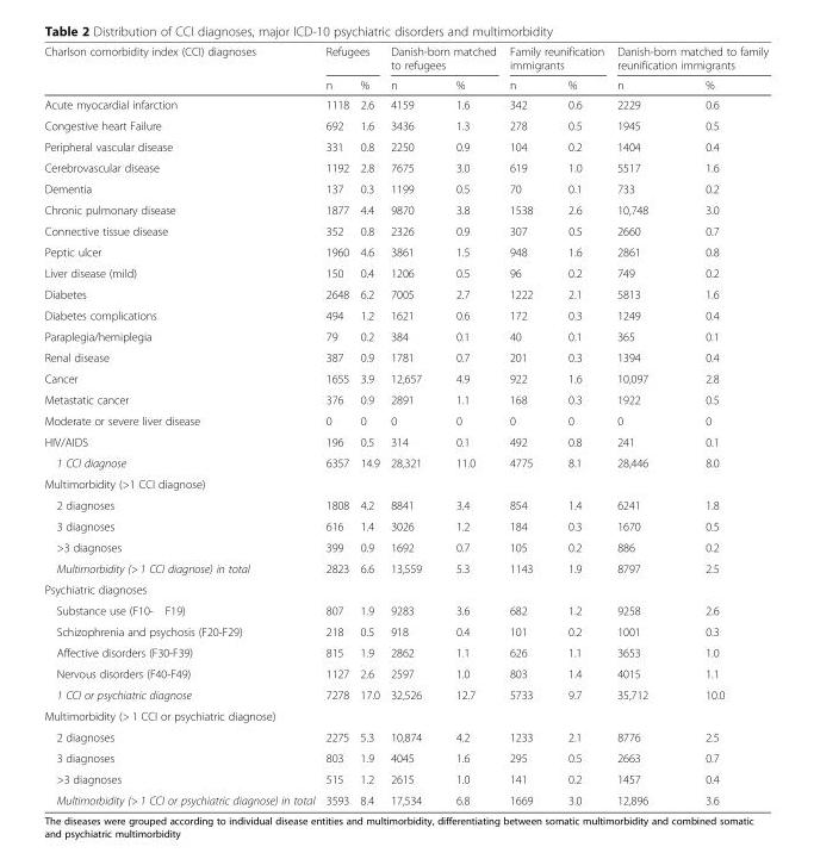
<table><thead><tr><td rowspan="2">Charlson comorbidity index (CCI) diagnoses</td><td colspan="2">Refugees</td><td colspan="2">Danish-born matched to refugees</td><td colspan="2">Family reunification immigrants</td><td colspan="2">Danish-born matched to family reunification immigrants</td></tr><tr><td>n</td><td>%</td><td>n</td><td>%</td><td>n</td><td>%</td><td>n</td><td>%</td></tr></thead><tbody><tr><td>Acute myocardial infarction</td><td>1118</td><td>2.6</td><td>4159</td><td>1.6</td><td>342</td><td>0.6</td><td>2229</td><td>0.6</td></tr><tr><td>Congestive heart Failure</td><td>692</td><td>1.6</td><td>3436</td><td>1.3</td><td>278</td><td>0.5</td><td>1945</td><td>0.5</td></tr><tr><td>Peripheral vascular disease</td><td>331</td><td>0.8</td><td>2250</td><td>0.9</td><td>104</td><td>0.2</td><td>1404</td><td>0.4</td></tr><tr><td>Cerebrovascular disease</td><td>1192</td><td>2.8</td><td>7675</td><td>3.0</td><td>619</td><td>1.0</td><td>5517</td><td>1.6</td></tr><tr><td>Dementia</td><td>137</td><td>0.3</td><td>1199</td><td>0.5</td><td>70</td><td>0.1</td><td>733</td><td>0.2</td></tr><tr><td>Chronic pulmonary disease</td><td>1877</td><td>4.4</td><td>9870</td><td>3.8</td><td>1538</td><td>2.6</td><td>10,748</td><td>3.0</td></tr><tr><td>Connective tissue disease</td><td>352</td><td>0.8</td><td>2326</td><td>0.9</td><td>307</td><td>0.5</td><td>2660</td><td>0.7</td></tr><tr><td>Peptic ulcer</td><td>1960</td><td>4.6</td><td>3861</td><td>1.5</td><td>948</td><td>1.6</td><td>2861</td><td>0.8</td></tr><tr><td>Liver disease (mild)</td><td>150</td><td>0.4</td><td>1206</td><td>0.5</td><td>96</td><td>0.2</td><td>749</td><td>0.2</td></tr><tr><td>Diabetes</td><td>2648</td><td>6.2</td><td>7005</td><td>2.7</td><td>1222</td><td>2.1</td><td>5813</td><td>1.6</td></tr><tr><td>Diabetes complications</td><td>494</td><td>1.2</td><td>1621</td><td>0.6</td><td>172</td><td>0.3</td><td>1249</td><td>0.4</td></tr><tr><td>Paraplegia/hemiplegia</td><td>79</td><td>0.2</td><td>384</td><td>0.1</td><td>40</td><td>0.1</td><td>365</td><td>0.1</td></tr><tr><td>Renal disease</td><td>387</td><td>0.9</td><td>1781</td><td>0.7</td><td>201</td><td>0.3</td><td>1394</td><td>0.4</td></tr><tr><td>Cancer</td><td>1655</td><td>3.9</td><td>12,657</td><td>4.9</td><td>922</td><td>1.6</td><td>10,097</td><td>2.8</td></tr><tr><td>Metastatic cancer</td><td>376</td><td>0.9</td><td>2891</td><td>1.1</td><td>168</td><td>0.3</td><td>1922</td><td>0.5</td></tr><tr><td>Moderate or severe liver disease</td><td>0</td><td>0</td><td>0</td><td>0</td><td>0</td><td>0</td><td>0</td><td>0</td></tr><tr><td>HIV/AIDS</td><td>196</td><td>0.5</td><td>314</td><td>0.1</td><td>492</td><td>0.8</td><td>241</td><td>0.1</td></tr><tr><td>1 CCI diagnose</td><td>6357</td><td>14.9</td><td>28,321</td><td>11.0</td><td>4775</td><td>8.1</td><td>28,446</td><td>8.0</td></tr><tr><td colspan="9">Multimorbidity (&gt;1 CCI diagnose)</td></tr><tr><td>2 diagnoses</td><td>1808</td><td>4.2</td><td>8841</td><td>3.4</td><td>854</td><td>1.4</td><td>6241</td><td>1.8</td></tr><tr><td>3 diagnoses</td><td>616</td><td>1.4</td><td>3026</td><td>1.2</td><td>184</td><td>0.3</td><td>1670</td><td>0.5</td></tr><tr><td>&gt;3 diagnoses</td><td>399</td><td>0.9</td><td>1692</td><td>0.7</td><td>105</td><td>0.2</td><td>886</td><td>0.2</td></tr><tr><td>Multimorbidity (&gt; 1 CCI diagnose) in total</td><td>2823</td><td>6.6</td><td>13,559</td><td>5.3</td><td>1143</td><td>1.9</td><td>8797</td><td>2.5</td></tr><tr><td colspan="9">Psychiatric diagnoses</td></tr><tr><td>Substance use (F10- F19)</td><td>807</td><td>1.9</td><td>9283</td><td>3.6</td><td>682</td><td>1.2</td><td>9258</td><td>2.6</td></tr><tr><td>Schizophrenia and psychosis (F20-F29)</td><td>218</td><td>0.5</td><td>918</td><td>0.4</td><td>101</td><td>0.2</td><td>1001</td><td>0.3</td></tr><tr><td>Affective disorders (F30-F39)</td><td>815</td><td>1.9</td><td>2862</td><td>1.1</td><td>626</td><td>1.1</td><td>3653</td><td>1.0</td></tr><tr><td>Nervous disorders (F40-F49)</td><td>1127</td><td>2.6</td><td>2597</td><td>1.0</td><td>803</td><td>1.4</td><td>4015</td><td>1.1</td></tr><tr><td>1 CCI or psychiatric diagnose</td><td>7278</td><td>17.0</td><td>32,526</td><td>12.7</td><td>5733</td><td>9.7</td><td>35,712</td><td>10.0</td></tr><tr><td colspan="9">Multimorbidity (&gt; 1 CCI or psychiatric diagnose)</td></tr><tr><td>2 diagnoses</td><td>2275</td><td>5.3</td><td>10,874</td><td>4.2</td><td>1233</td><td>2.1</td><td>8776</td><td>2.5</td></tr><tr><td>3 diagnoses</td><td>803</td><td>1.9</td><td>4045</td><td>1.6</td><td>295</td><td>0.5</td><td>2663</td><td>0.7</td></tr><tr><td>&gt;3 diagnoses</td><td>515</td><td>1.2</td><td>2615</td><td>1.0</td><td>141</td><td>0.2</td><td>1457</td><td>0.4</td></tr><tr><td>Multimorbidity (&gt; 1 CCI or psychiatric diagnose) in total</td><td>3593</td><td>8.4</td><td>17,534</td><td>6.8</td><td>1669</td><td>3.0</td><td>12,896</td><td>3.6</td></tr></tbody></table>